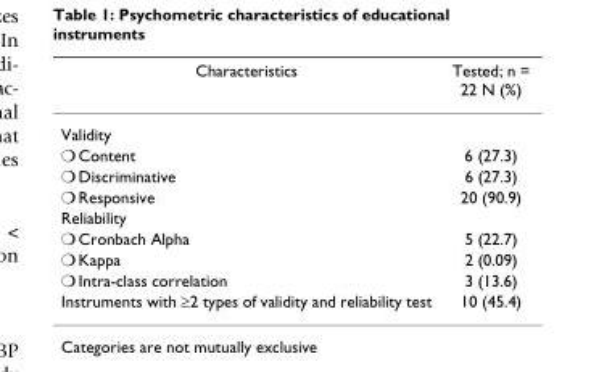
<table><thead><tr><td>Characteristics</td><td>Tested; n = 22 N (%)</td></tr></thead><tbody><tr><td colspan="2">Validity</td></tr><tr><td>❍ Content</td><td>6 (27.3)</td></tr><tr><td>❍ Discriminative</td><td>6 (27.3)</td></tr><tr><td>❍ Responsive</td><td>20 (90.9)</td></tr><tr><td colspan="2">Reliability</td></tr><tr><td>❍ Cronbach Alpha</td><td>5 (22.7)</td></tr><tr><td>❍ Kappa</td><td>2 (0.09)</td></tr><tr><td>❍ Intra-class correlation</td><td>3 (13.6)</td></tr><tr><td>Instruments with ≥2 types of validity and reliability test</td><td>10 (45.4)</td></tr></tbody></table>